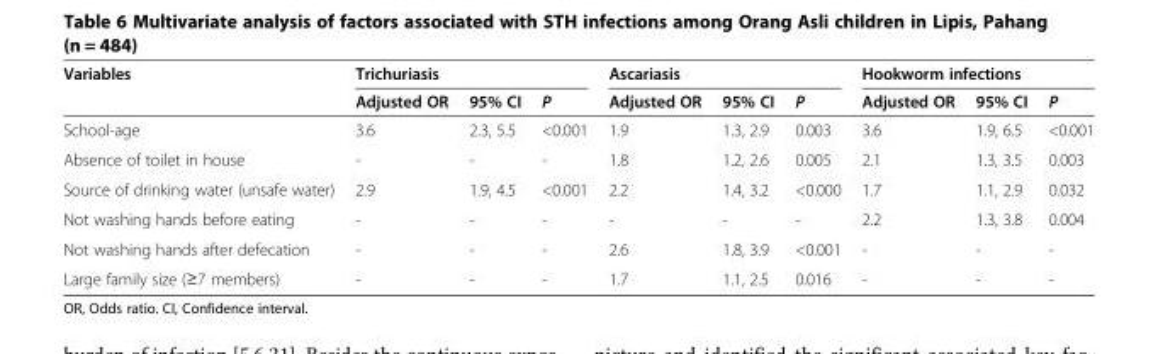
<table><thead><tr><td rowspan="2">Variables</td><td colspan="3">Trichuriasis</td><td colspan="3">Ascariasis</td><td colspan="3">Hookworm infections</td></tr><tr><td>Adjusted OR</td><td>95% CI</td><td>P</td><td>Adjusted OR</td><td>95% CI</td><td>P</td><td>Adjusted OR</td><td>95% CI</td><td>P</td></tr></thead><tbody><tr><td>School-age</td><td>3.6</td><td>2.3, 5.5</td><td>&lt;0.001</td><td>1.9</td><td>1.3, 2.9</td><td>0.003</td><td>3.6</td><td>1.9, 6.5</td><td>&lt;0.001</td></tr><tr><td>Absence of toilet in house</td><td>-</td><td>-</td><td>-</td><td>1.8</td><td>1.2, 2.6</td><td>0.005</td><td>2.1</td><td>1.3, 3.5</td><td>0.003</td></tr><tr><td>Source of drinking water (unsafe water)</td><td>2.9</td><td>1.9, 4.5</td><td>&lt;0.001</td><td>2.2</td><td>1.4, 3.2</td><td>&lt;0.000</td><td>1.7</td><td>1.1, 2.9</td><td>0.032</td></tr><tr><td>Not washing hands before eating</td><td>-</td><td>-</td><td>-</td><td>-</td><td>-</td><td>-</td><td>2.2</td><td>1.3, 3.8</td><td>0.004</td></tr><tr><td>Not washing hands after defecation</td><td>-</td><td>-</td><td>-</td><td>2.6</td><td>1.8, 3.9</td><td>&lt;0.001</td><td>-</td><td>-</td><td>-</td></tr><tr><td>Large family size (≥7 members)</td><td>-</td><td>-</td><td>-</td><td>1.7</td><td>1.1, 2.5</td><td>0.016</td><td>-</td><td>-</td><td>-</td></tr></tbody></table>